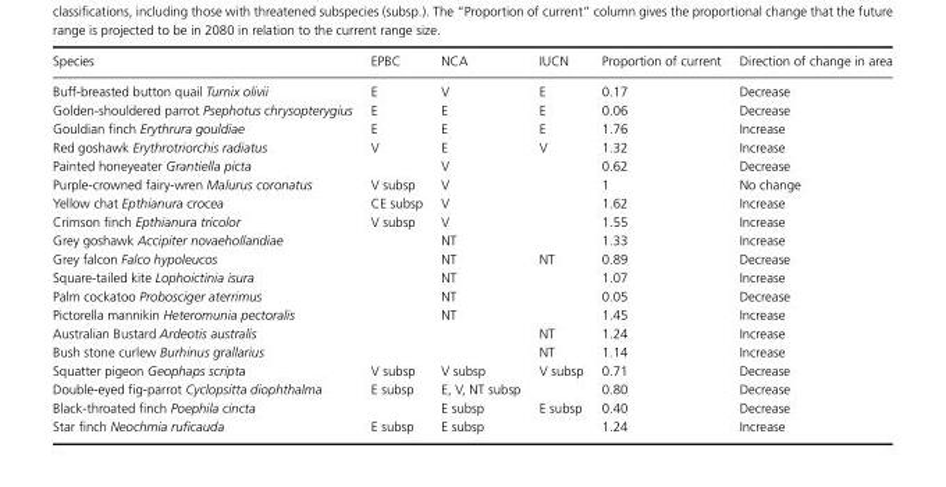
<table><thead><tr><td>Species</td><td>EPBC</td><td>NCA</td><td>IUCN</td><td>Proportion of current</td><td>Direction of change in area</td></tr></thead><tbody><tr><td>Buff-breasted button quail Turnix olivii</td><td>E</td><td>V</td><td>E</td><td>0.17</td><td>Decrease</td></tr><tr><td>Golden-shouldered parrot Psephotus chrysopterygius</td><td>E</td><td>E</td><td>E</td><td>0.06</td><td>Decrease</td></tr><tr><td>Gouldian finch Erythrura gouldiae</td><td>E</td><td>E</td><td>E</td><td>1.76</td><td>Increase</td></tr><tr><td>Red goshawk Erythrotriorchis radiatus</td><td>V</td><td>E</td><td>V</td><td>1.32</td><td>Increase</td></tr><tr><td>Painted honeyeater Grantiella picta</td><td></td><td>V</td><td></td><td>0.62</td><td>Decrease</td></tr><tr><td>Purple-crowned fairy-wren Malurus coronatus</td><td>V subsp</td><td>V</td><td></td><td>1</td><td>No change</td></tr><tr><td>Yellow chat Epthianura crocea</td><td>CE subsp</td><td>V</td><td></td><td>1.62</td><td>Increase</td></tr><tr><td>Crimson finch Epthianura tricolor</td><td>V subsp</td><td>V</td><td></td><td>1.55</td><td>Increase</td></tr><tr><td>Grey goshawk Accipiter novaehollandiae</td><td></td><td>NT</td><td></td><td>1.33</td><td>Increase</td></tr><tr><td>Grey falcon Falco hypoleucos</td><td></td><td>NT</td><td>NT</td><td>0.89</td><td>Decrease</td></tr><tr><td>Square-tailed kite Lophoictinia isura</td><td></td><td>NT</td><td></td><td>1.07</td><td>Increase</td></tr><tr><td>Palm cockatoo Probosciger aterrimus</td><td></td><td>NT</td><td></td><td>0.05</td><td>Decrease</td></tr><tr><td>Pictorella mannikin Heteromunia pectoralis</td><td></td><td>NT</td><td></td><td>1.45</td><td>Increase</td></tr><tr><td>Australian Bustard Ardeotis australis</td><td></td><td></td><td>NT</td><td>1.24</td><td>Increase</td></tr><tr><td>Bush stone curlew Burhinus grallarius</td><td></td><td></td><td>NT</td><td>1.14</td><td>Increase</td></tr><tr><td>Squatter pigeon Geophaps scripta</td><td>V subsp</td><td>V subsp</td><td>V subsp</td><td>0.71</td><td>Decrease</td></tr><tr><td>Double-eyed fig-parrot Cyclopsitta diophthalma</td><td>E subsp</td><td>E, V, NT subsp</td><td></td><td>0.80</td><td>Decrease</td></tr><tr><td>Black-throated finch Poephila cincta</td><td></td><td>E subsp</td><td>E subsp</td><td>0.40</td><td>Decrease</td></tr><tr><td>Star finch Neochmia ruficauda</td><td>E subsp</td><td>E subsp</td><td></td><td>1.24</td><td>Increase</td></tr></tbody></table>